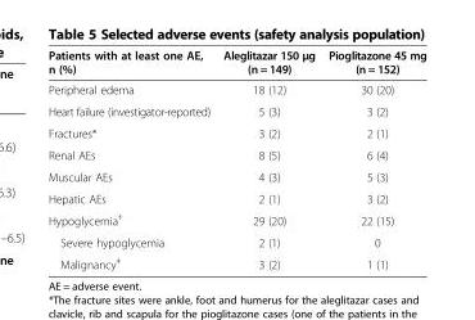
<table><thead><tr><td>Patients with at least one AE, n (%)</td><td>Aleglitazar 150 μg (n = 149)</td><td>Pioglitazone 45 mg (n = 152)</td></tr></thead><tbody><tr><td>Peripheral edema</td><td>18 (12)</td><td>30 (20)</td></tr><tr><td>Heart failure (investigator-reported)</td><td>5 (3)</td><td>3 (2)</td></tr><tr><td>Fractures*</td><td>3 (2)</td><td>2 (1)</td></tr><tr><td>Renal AEs</td><td>8 (5)</td><td>6 (4)</td></tr><tr><td>Muscular AEs</td><td>4 (3)</td><td>5 (3)</td></tr><tr><td>Hepatic AEs</td><td>2 (1)</td><td>3 (2)</td></tr><tr><td>Hypoglycemia<sup>†</sup></td><td>29 (20)</td><td>22 (15)</td></tr><tr><td>Severe hypoglycemia</td><td>2 (1)</td><td>0</td></tr><tr><td>Malignancy<sup>‡</sup></td><td>3 (2)</td><td>1 (1)</td></tr></tbody></table>